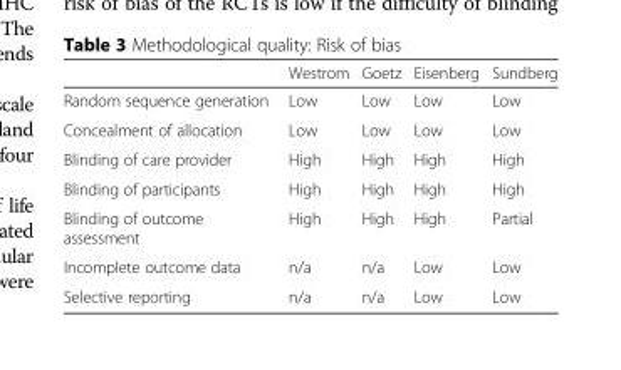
<table><thead><tr><td></td><td>Westrom</td><td>Goetz</td><td>Eisenberg</td><td>Sundberg</td></tr></thead><tbody><tr><td>Random sequence generation</td><td>Low</td><td>Low</td><td>Low</td><td>Low</td></tr><tr><td>Concealment of allocation</td><td>Low</td><td>Low</td><td>Low</td><td>Low</td></tr><tr><td>Blinding of care provider</td><td>High</td><td>High</td><td>High</td><td>High</td></tr><tr><td>Blinding of participants</td><td>High</td><td>High</td><td>High</td><td>High</td></tr><tr><td>Blinding of outcome assessment</td><td>High</td><td>High</td><td>High</td><td>Partial</td></tr><tr><td>Incomplete outcome data</td><td>n/a</td><td>n/a</td><td>Low</td><td>Low</td></tr><tr><td>Selective reporting</td><td>n/a</td><td>n/a</td><td>Low</td><td>Low</td></tr></tbody></table>